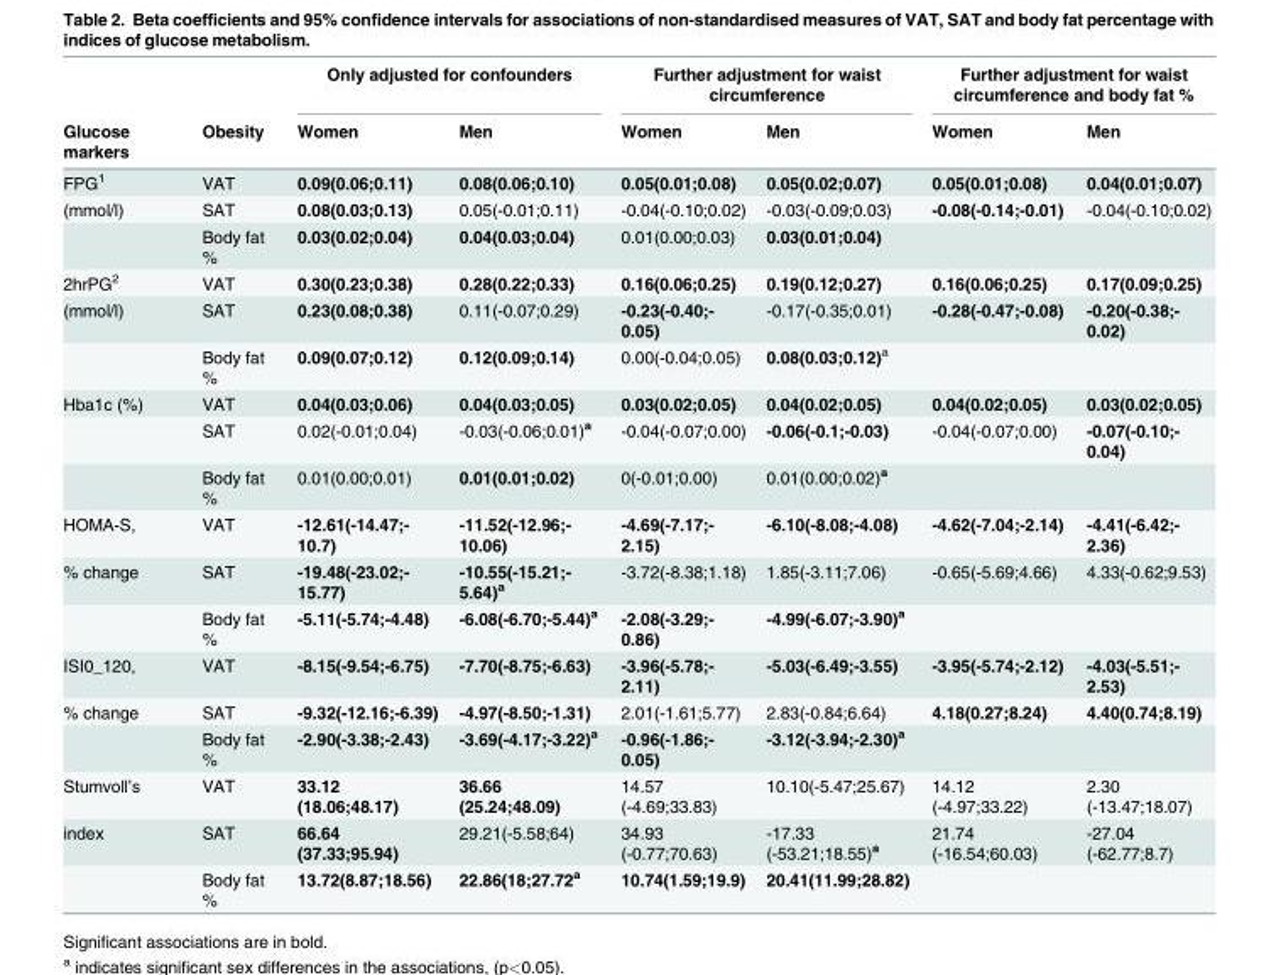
<table><thead><tr><td rowspan="2">Glucose markers</td><td rowspan="2">Obesity</td><td colspan="2">Only adjusted for confounders</td><td colspan="2">Further adjustment for waist circumference</td><td colspan="2">Further adjustment for waist circumference and body fat %</td></tr><tr><td>Women</td><td>Men</td><td>Women</td><td>Men</td><td>Women</td><td>Men</td></tr></thead><tbody><tr><td>FPG<sup>1</sup></td><td>VAT</td><td>0.09(0.06;0.11)</td><td>0.08(0.06;0.10)</td><td>0.05(0.01;0.08)</td><td>0.05(0.02;0.07)</td><td>0.05(0.01;0.08)</td><td>0.04(0.01;0.07)</td></tr><tr><td rowspan="2">(mmol/l)</td><td>SAT</td><td>0.08(0.03;0.13)</td><td>0.05(-0.01;0.11)</td><td>-0.04(-0.10;0.02)</td><td>-0.03(-0.09;0.03)</td><td>-0.08(-0.14;-0.01)</td><td>-0.04(-0.10;0.02)</td></tr><tr><td>Body fat %</td><td>0.03(0.02;0.04)</td><td>0.04(0.03;0.04)</td><td>0.01(0.00;0.03)</td><td>0.03(0.01;0.04)</td><td></td><td></td></tr><tr><td>2hrPG<sup>2</sup></td><td>VAT</td><td>0.30(0.23;0.38)</td><td>0.28(0.22;0.33)</td><td>0.16(0.06;0.25)</td><td>0.19(0.12;0.27)</td><td>0.16(0.06;0.25)</td><td>0.17(0.09;0.25)</td></tr><tr><td rowspan="2">(mmol/l)</td><td>SAT</td><td>0.23(0.08;0.38)</td><td>0.11(-0.07;0.29)</td><td>-0.23(-0.40;- 0.05)</td><td>-0.17(-0.35;0.01)</td><td>-0.28(-0.47;-0.08)</td><td>-0.20(-0.38;- 0.02)</td></tr><tr><td>Body fat %</td><td>0.09(0.07;0.12)</td><td>0.12(0.09;0.14)</td><td>0.00(-0.04;0.05)</td><td>0.08(0.03;0.12)<sup>a</sup></td><td></td><td></td></tr><tr><td rowspan="3">Hba1c (%)</td><td>VAT</td><td>0.04(0.03;0.06)</td><td>0.04(0.03;0.05)</td><td>0.03(0.02;0.05)</td><td>0.04(0.02;0.05)</td><td>0.04(0.02;0.05)</td><td>0.03(0.02;0.05)</td></tr><tr><td>SAT</td><td>0.02(-0.01;0.04)</td><td>-0.03(-0.06;0.01)<sup>a</sup></td><td>-0.04(-0.07;0.00)</td><td>-0.06(-0.1;-0.03)</td><td>-0.04(-0.07;0.00)</td><td>-0.07(-0.10;- 0.04)</td></tr><tr><td>Body fat %</td><td>0.01(0.00;0.01)</td><td>0.01(0.01;0.02)</td><td>0(-0.01;0.00)</td><td>0.01(0.00;0.02)<sup>a</sup></td><td></td><td></td></tr><tr><td>HOMA-S,</td><td>VAT</td><td>-12.61(-14.47;- 10.7)</td><td>-11.52(-12.96;- 10.06)</td><td>-4.69(-7.17;- 2.15)</td><td>-6.10(-8.08;-4.08)</td><td>-4.62(-7.04;-2.14)</td><td>-4.41(-6.42;- 2.36)</td></tr><tr><td rowspan="2">% change</td><td>SAT</td><td>-19.48(-23.02;- 15.77)</td><td>-10.55(-15.21;- 5.64)<sup>a</sup></td><td>-3.72(-8.38;1.18)</td><td>1.85(-3.11;7.06)</td><td>-0.65(-5.69;4.66)</td><td>4.33(-0.62;9.53)</td></tr><tr><td>Body fat %</td><td>-5.11(-5.74;-4.48)</td><td>-6.08(-6.70;-5.44)<sup>a</sup></td><td>-2.08(-3.29;- 0.86)</td><td>-4.99(-6.07;-3.90)<sup>a</sup></td><td></td><td></td></tr><tr><td>ISI0_120,</td><td>VAT</td><td>-8.15(-9.54;-6.75)</td><td>-7.70(-8.75;-6.63)</td><td>-3.96(-5.78;- 2.11)</td><td>-5.03(-6.49;-3.55)</td><td>-3.95(-5.74;-2.12)</td><td>-4.03(-5.51;- 2.53)</td></tr><tr><td rowspan="2">% change</td><td>SAT</td><td>-9.32(-12.16;-6.39)</td><td>-4.97(-8.50;-1.31)</td><td>2.01(-1.61;5.77)</td><td>2.83(-0.84;6.64)</td><td>4.18(0.27;8.24)</td><td>4.40(0.74;8.19)</td></tr><tr><td>Body fat %</td><td>-2.90(-3.38;-2.43)</td><td>-3.69(-4.17;-3.22)<sup>a</sup></td><td>-0.96(-1.86;- 0.05)</td><td>-3.12(-3.94;-2.30)<sup>a</sup></td><td></td><td></td></tr><tr><td>Stumvoll’s</td><td>VAT</td><td>33.12 (18.06;48.17)</td><td>36.66 (25.24;48.09)</td><td>14.57 (-4.69;33.83)</td><td>10.10(-5.47;25.67)</td><td>14.12 (-4.97;33.22)</td><td>2.30 (-13.47;18.07)</td></tr><tr><td rowspan="2">index</td><td>SAT</td><td>66.64 (37.33;95.94)</td><td>29.21(-5.58;64)</td><td>34.93 (-0.77;70.63)</td><td>-17.33 (-53.21;18.55)<sup>a</sup></td><td>21.74 (-16.54;60.03)</td><td>-27.04 (-62.77;8.7)</td></tr><tr><td>Body fat %</td><td>13.72(8.87;18.56)</td><td>22.86(18;27.72<sup>a</sup></td><td>10.74(1.59;19.9)</td><td>20.41(11.99;28.82)</td><td></td><td></td></tr></tbody></table>